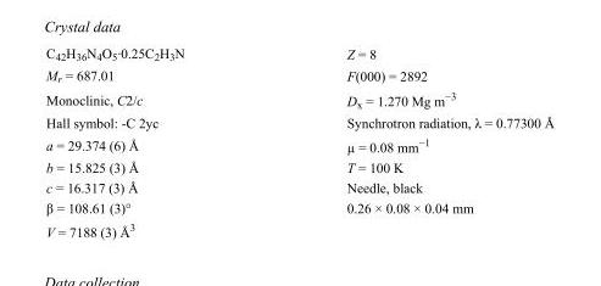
<table><tbody><tr><td>C<sub>42</sub>H<sub>36</sub>N<sub>4</sub>O<sub>5</sub>·0.25C<sub>2</sub>H<sub>3</sub>N</td><td>Z = 8</td></tr><tr><td>M<sub>r</sub> = 687.01</td><td>F(000) = 2892</td></tr><tr><td>Monoclinic, C2/c</td><td>D<sub>x</sub> = 1.270 Mg m<sup>−3</sup></td></tr><tr><td>Hall symbol: -C 2yc</td><td>Synchrotron radiation, λ = 0.77300 Å</td></tr><tr><td>a = 29.374 (6) Å</td><td>µ = 0.08 mm<sup>−1</sup></td></tr><tr><td>b = 15.825 (3) Å</td><td>T = 100 K</td></tr><tr><td>c = 16.317 (3) Å</td><td>Needle, black</td></tr><tr><td>β = 108.61 (3)°</td><td>0.26 × 0.08 × 0.04 mm</td></tr><tr><td>V = 7188 (3) Å<sup>3</sup></td><td></td></tr></tbody></table>